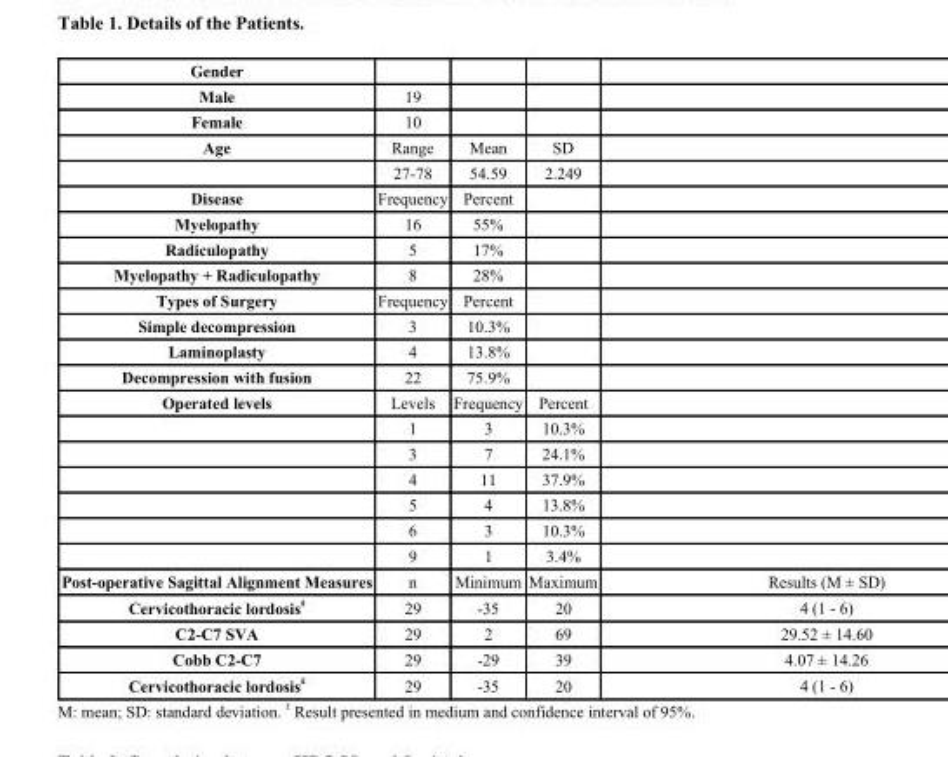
<table><thead><tr><td>Gender</td><td></td><td></td><td></td><td></td></tr></thead><tbody><tr><td>Male</td><td>19</td><td></td><td></td><td></td></tr><tr><td>Female</td><td>10</td><td></td><td></td><td></td></tr><tr><td rowspan="2">Age</td><td>Range</td><td>Mean</td><td>SD</td><td></td></tr><tr><td>27-78</td><td>54.59</td><td>2.249</td><td></td></tr><tr><td>Disease</td><td>Frequency</td><td>Percent</td><td></td><td></td></tr><tr><td>Myelopathy</td><td>16</td><td>55%</td><td></td><td></td></tr><tr><td>Radiculopathy</td><td>5</td><td>17%</td><td></td><td></td></tr><tr><td>Myelopathy + Radiculopathy</td><td>8</td><td>28%</td><td></td><td></td></tr><tr><td>Types of Surgery</td><td>Frequency</td><td>Percent</td><td></td><td></td></tr><tr><td>Simple decompression</td><td>3</td><td>10.3%</td><td></td><td></td></tr><tr><td>Laminoplasty</td><td>4</td><td>13.8%</td><td></td><td></td></tr><tr><td>Decompression with fusion</td><td>22</td><td>75.9%</td><td></td><td></td></tr><tr><td rowspan="7">Operated levels</td><td>Levels</td><td>Frequency</td><td>Percent</td><td></td></tr><tr><td>1</td><td>3</td><td>10.3%</td><td></td></tr><tr><td>3</td><td>7</td><td>24.1%</td><td></td></tr><tr><td>4</td><td>11</td><td>37.9%</td><td></td></tr><tr><td>5</td><td>4</td><td>13.8%</td><td></td></tr><tr><td>6</td><td>3</td><td>10.3%</td><td></td></tr><tr><td>9</td><td>1</td><td>3.4%</td><td></td></tr><tr><td>Post-operative Sagittal Alignment Measures</td><td>n</td><td>Minimum</td><td>Maximum</td><td>Results (M ± SD)</td></tr><tr><td>Cervicothoracic lordosis <sup>£</sup></td><td>29</td><td>-35</td><td>20</td><td>4 (1 - 6)</td></tr><tr><td>C2-C7 SVA</td><td>29</td><td>2</td><td>69</td><td>29.52 ± 14.60</td></tr><tr><td>Cobb C2-C7</td><td>29</td><td>-29</td><td>39</td><td>4.07 ± 14.26</td></tr><tr><td>Cervicothoracic lordosis <sup>£</sup></td><td>29</td><td>-35</td><td>20</td><td>4 (1 - 6)</td></tr></tbody></table>